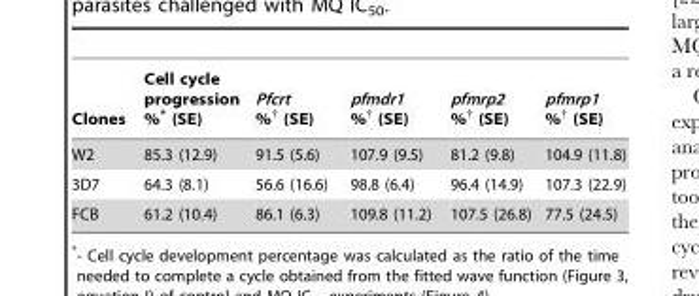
<table><thead><tr><td>Clones</td><td>Cell cycle progression %* (SE)</td><td>Pfcrt %† (SE)</td><td>pfmdr1 %† (SE)</td><td>pfmrp2 %† (SE)</td><td>pfmrp1 %† (SE)</td></tr></thead><tbody><tr><td>W2</td><td>85.3 (12.9)</td><td>91.5 (5.6)</td><td>107.9 (9.5)</td><td>81.2 (9.8)</td><td>104.9 (11.8)</td></tr><tr><td>3D7</td><td>64.3 (8.1)</td><td>56.6 (16.6)</td><td>98.8 (6.4)</td><td>96.4 (14.9)</td><td>107.3 (22.9)</td></tr><tr><td>FCB</td><td>61.2 (10.4)</td><td>86.1 (6.3)</td><td>109.8 (11.2)</td><td>107.5 (26.8)</td><td>77.5 (24.5)</td></tr></tbody></table>